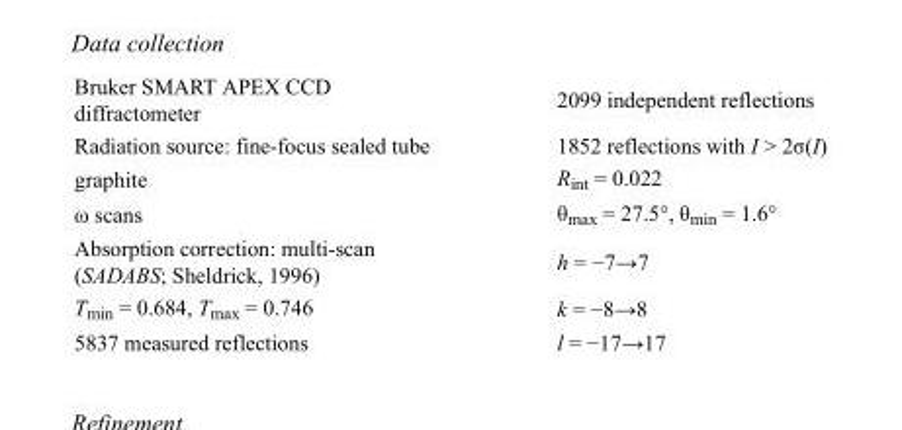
<table><tbody><tr><td>Bruker SMART APEX CCD diffractometer</td><td>2099 independent reflections</td></tr><tr><td>Radiation source: fine-focus sealed tube</td><td>1852 reflections with I &gt; 2σ(I)</td></tr><tr><td>graphite</td><td>R<sub>int</sub> = 0.022</td></tr><tr><td>ω scans</td><td>θ<sub>max</sub> = 27.5°, θ<sub>min</sub> = 1.6°</td></tr><tr><td>Absorption correction: multi-scan (SADABS; Sheldrick, 1996)</td><td>h = −7→7</td></tr><tr><td>T<sub>min</sub> = 0.684, T<sub>max</sub> = 0.746</td><td>k = −8→8</td></tr><tr><td>5837 measured reflections</td><td>l = −17→17</td></tr></tbody></table>